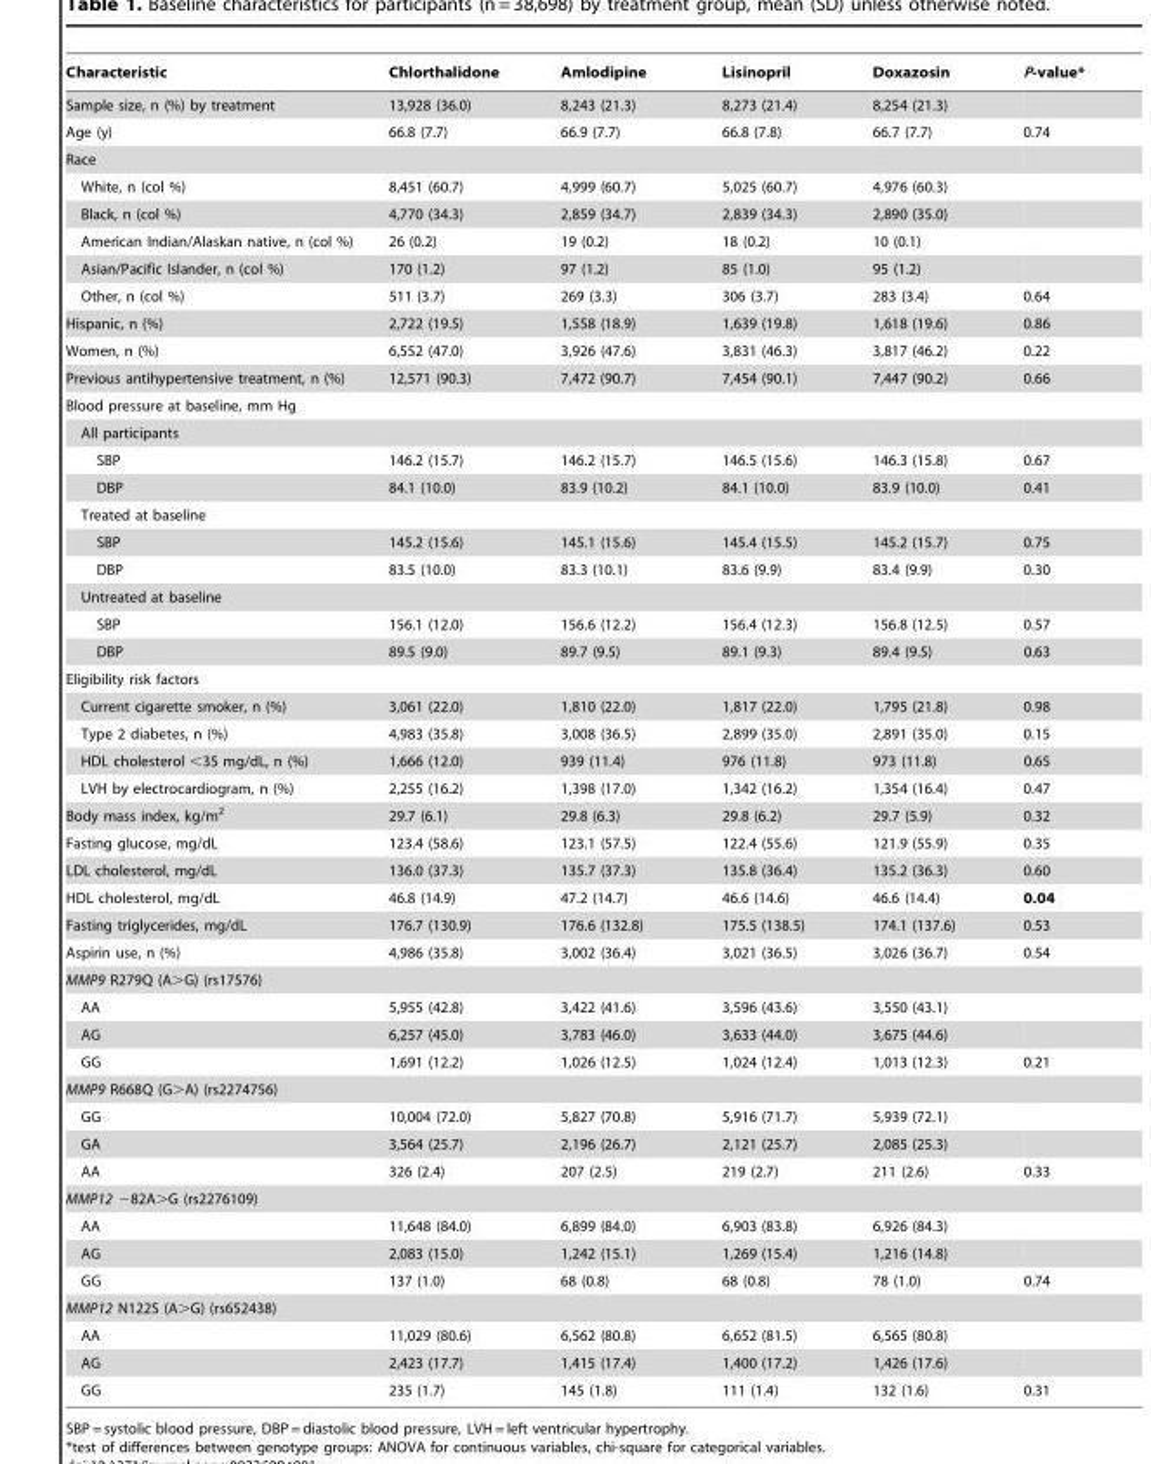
<table><thead><tr><td>Characteristic</td><td>Chlorthalidone</td><td>Amlodipine</td><td>Lisinopril</td><td>Doxazosin</td><td>P-value*</td></tr></thead><tbody><tr><td>Sample size, n (%) by treatment</td><td>13,928 (36.0)</td><td>8,243 (21.3)</td><td>8,273 (21.4)</td><td>8,254 (21.3)</td><td></td></tr><tr><td>Age (y)</td><td>66.8 (7.7)</td><td>66.9 (7.7)</td><td>66.8 (7.8)</td><td>66.7 (7.7)</td><td>0.74</td></tr><tr><td colspan="6">Race</td></tr><tr><td>White, n (col %)</td><td>8,451 (60.7)</td><td>4,999 (60.7)</td><td>5,025 (60.7)</td><td>4,976 (60.3)</td><td></td></tr><tr><td>Black, n (col %)</td><td>4,770 (34.3)</td><td>2,859 (34.7)</td><td>2,839 (34.3)</td><td>2,890 (35.0)</td><td></td></tr><tr><td>American Indian/Alaskan native, n (col %)</td><td>26 (0.2)</td><td>19 (0.2)</td><td>18 (0.2)</td><td>10 (0.1)</td><td></td></tr><tr><td>Asian/Pacific Islander, n (col %)</td><td>170 (1.2)</td><td>97 (1.2)</td><td>85 (1.0)</td><td>95 (1.2)</td><td></td></tr><tr><td>Other, n (col %)</td><td>511 (3.7)</td><td>269 (3.3)</td><td>306 (3.7)</td><td>283 (3.4)</td><td>0.64</td></tr><tr><td>Hispanic, n (%)</td><td>2,722 (19.5)</td><td>1,558 (18.9)</td><td>1,639 (19.8)</td><td>1,618 (19.6)</td><td>0.86</td></tr><tr><td>Women, n (%)</td><td>6,552 (47.0)</td><td>3,926 (47.6)</td><td>3,831 (46.3)</td><td>3,817 (46.2)</td><td>0.22</td></tr><tr><td>Previous antihypertensive treatment, n (%)</td><td>12,571 (90.3)</td><td>7,472 (90.7)</td><td>7,454 (90.1)</td><td>7,447 (90.2)</td><td>0.66</td></tr><tr><td colspan="6">Blood pressure at baseline, mm Hg</td></tr><tr><td colspan="6">All participants</td></tr><tr><td>SBP</td><td>146.2 (15.7)</td><td>146.2 (15.7)</td><td>146.5 (15.6)</td><td>146.3 (15.8)</td><td>0.67</td></tr><tr><td>DBP</td><td>84.1 (10.0)</td><td>83.9 (10.2)</td><td>84.1 (10.0)</td><td>83.9 (10.0)</td><td>0.41</td></tr><tr><td colspan="6">Treated at baseline</td></tr><tr><td>SBP</td><td>145.2 (15.6)</td><td>145.1 (15.6)</td><td>145.4 (15.5)</td><td>145.2 (15.7)</td><td>0.75</td></tr><tr><td>DBP</td><td>83.5 (10.0)</td><td>83.3 (10.1)</td><td>83.6 (9.9)</td><td>83.4 (9.9)</td><td>0.30</td></tr><tr><td colspan="6">Untreated at baseline</td></tr><tr><td>SBP</td><td>156.1 (12.0)</td><td>156.6 (12.2)</td><td>156.4 (12.3)</td><td>156.8 (12.5)</td><td>0.57</td></tr><tr><td>DBP</td><td>89.5 (9.0)</td><td>89.7 (9.5)</td><td>89.1 (9.3)</td><td>89.4 (9.5)</td><td>0.63</td></tr><tr><td colspan="6">Eligibility risk factors</td></tr><tr><td>Current cigarette smoker, n (%)</td><td>3,061 (22.0)</td><td>1,810 (22.0)</td><td>1,817 (22.0)</td><td>1,795 (21.8)</td><td>0.98</td></tr><tr><td>Type 2 diabetes, n (%)</td><td>4,983 (35.8)</td><td>3,008 (36.5)</td><td>2,899 (35.0)</td><td>2,891 (35.0)</td><td>0.15</td></tr><tr><td>HDL cholesterol &lt;35 mg/dL, n (%)</td><td>1,666 (12.0)</td><td>939 (11.4)</td><td>976 (11.8)</td><td>973 (11.8)</td><td>0.65</td></tr><tr><td>LVH by electrocardiogram, n (%)</td><td>2,255 (16.2)</td><td>1,398 (17.0)</td><td>1,342 (16.2)</td><td>1,354 (16.4)</td><td>0.47</td></tr><tr><td>Body mass index, kg/m<sup>2</sup></td><td>29.7 (6.1)</td><td>29.8 (6.3)</td><td>29.8 (6.2)</td><td>29.7 (5.9)</td><td>0.32</td></tr><tr><td>Fasting glucose, mg/dL</td><td>123.4 (58.6)</td><td>123.1 (57.5)</td><td>122.4 (55.6)</td><td>121.9 (55.9)</td><td>0.35</td></tr><tr><td>LDL cholesterol, mg/dL</td><td>136.0 (37.3)</td><td>135.7 (37.3)</td><td>135.8 (36.4)</td><td>135.2 (36.3)</td><td>0.60</td></tr><tr><td>HDL cholesterol, mg/dL</td><td>46.8 (14.9)</td><td>47.2 (14.7)</td><td>46.6 (14.6)</td><td>46.6 (14.4)</td><td>0.04</td></tr><tr><td>Fasting triglycerides, mg/dL</td><td>176.7 (130.9)</td><td>176.6 (132.8)</td><td>175.5 (138.5)</td><td>174.1 (137.6)</td><td>0.53</td></tr><tr><td>Aspirin use, n (%)</td><td>4,986 (35.8)</td><td>3,002 (36.4)</td><td>3,021 (36.5)</td><td>3,026 (36.7)</td><td>0.54</td></tr><tr><td colspan="6">MMP9 R279Q (A&gt;G) (rs17576)</td></tr><tr><td>AA</td><td>5,955 (42.8)</td><td>3,422 (41.6)</td><td>3,596 (43.6)</td><td>3,550 (43.1)</td><td></td></tr><tr><td>AG</td><td>6,257 (45.0)</td><td>3,783 (46.0)</td><td>3,633 (44.0)</td><td>3,675 (44.6)</td><td></td></tr><tr><td>GG</td><td>1,691 (12.2)</td><td>1,026 (12.5)</td><td>1,024 (12.4)</td><td>1,013 (12.3)</td><td>0.21</td></tr><tr><td colspan="6">MMP9 R668Q (G&gt;A) (rs2274756)</td></tr><tr><td>GG</td><td>10,004 (72.0)</td><td>5,827 (70.8)</td><td>5,916 (71.7)</td><td>5,939 (72.1)</td><td></td></tr><tr><td>GA</td><td>3,564 (25.7)</td><td>2,196 (26.7)</td><td>2,121 (25.7)</td><td>2,085 (25.3)</td><td></td></tr><tr><td>AA</td><td>326 (2.4)</td><td>207 (2.5)</td><td>219 (2.7)</td><td>211 (2.6)</td><td>0.33</td></tr><tr><td colspan="6">MMP12 −82A&gt;G (rs2276109)</td></tr><tr><td>AA</td><td>11,648 (84.0)</td><td>6,899 (84.0)</td><td>6,903 (83.8)</td><td>6,926 (84.3)</td><td></td></tr><tr><td>AG</td><td>2,083 (15.0)</td><td>1,242 (15.1)</td><td>1,269 (15.4)</td><td>1,216 (14.8)</td><td></td></tr><tr><td>GG</td><td>137 (1.0)</td><td>68 (0.8)</td><td>68 (0.8)</td><td>78 (1.0)</td><td>0.74</td></tr><tr><td colspan="6">MMP12 N122S (A&gt;G) (rs652438)</td></tr><tr><td>AA</td><td>11,029 (80.6)</td><td>6,562 (80.8)</td><td>6,652 (81.5)</td><td>6,565 (80.8)</td><td></td></tr><tr><td>AG</td><td>2,423 (17.7)</td><td>1,415 (17.4)</td><td>1,400 (17.2)</td><td>1,426 (17.6)</td><td></td></tr><tr><td>GG</td><td>235 (1.7)</td><td>145 (1.8)</td><td>111 (1.4)</td><td>132 (1.6)</td><td>0.31</td></tr></tbody></table>